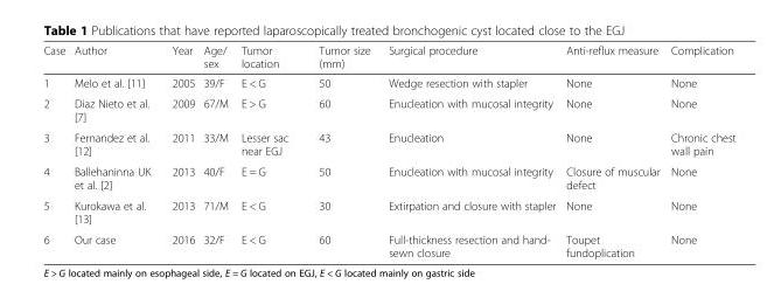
<table><thead><tr><td>Case</td><td>Author</td><td>Year</td><td>Age/ sex</td><td>Tumor location</td><td>Tumor size (mm)</td><td>Surgical procedure</td><td>Anti-reflux measure</td><td>Complication</td></tr></thead><tbody><tr><td>1</td><td>Melo et al. [11]</td><td>2005</td><td>39/F</td><td>E &lt; G</td><td>50</td><td>Wedge resection with stapler</td><td>None</td><td>None</td></tr><tr><td>2</td><td>Diaz Nieto et al. [7]</td><td>2009</td><td>67/M</td><td>E &gt; G</td><td>60</td><td>Enucleation with mucosal integrity</td><td>None</td><td>None</td></tr><tr><td>3</td><td>Fernandez et al. [12]</td><td>2011</td><td>33/M</td><td>Lesser sac near EGJ</td><td>43</td><td>Enucleation</td><td>None</td><td>Chronic chest wall pain</td></tr><tr><td>4</td><td>Ballehaninna UK et al. [2]</td><td>2013</td><td>40/F</td><td>E = G</td><td>50</td><td>Enucleation with mucosal integrity</td><td>Closure of muscular defect</td><td>None</td></tr><tr><td>5</td><td>Kurokawa et al. [13]</td><td>2013</td><td>71/M</td><td>E &lt; G</td><td>30</td><td>Extirpation and closure with stapler</td><td>None</td><td>None</td></tr><tr><td>6</td><td>Our case</td><td>2016</td><td>32/F</td><td>E &lt; G</td><td>60</td><td>Full-thickness resection and hand- sewn closure</td><td>Toupet fundoplication</td><td>None</td></tr></tbody></table>